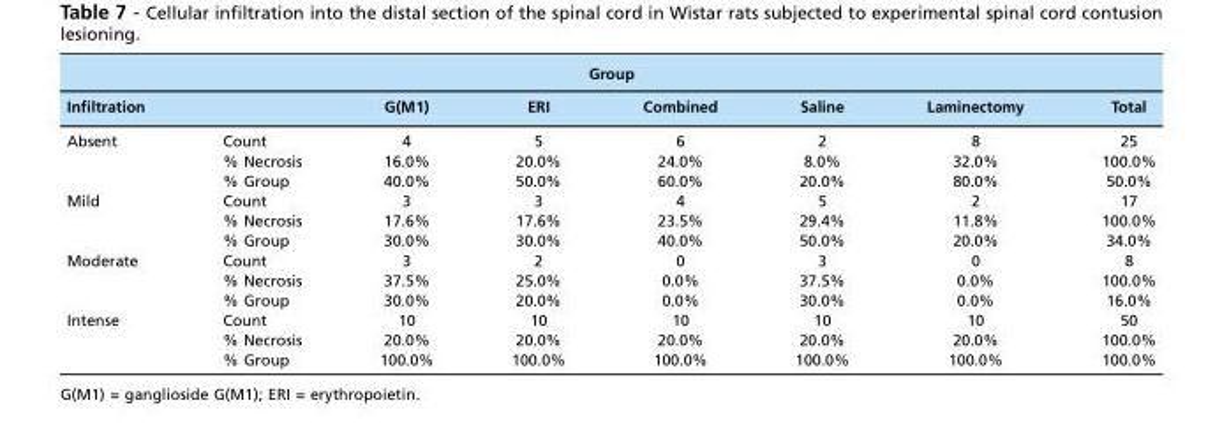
<table><thead><tr><td colspan="8">Group</td></tr><tr><td>Infiltration</td><td></td><td>G(M1)</td><td>ERI</td><td>Combined</td><td>Saline</td><td>Laminectomy</td><td>Total</td></tr></thead><tbody><tr><td rowspan="3">Absent</td><td>Count</td><td>4</td><td>5</td><td>6</td><td>2</td><td>8</td><td>25</td></tr><tr><td>% Necrosis</td><td>16.0%</td><td>20.0%</td><td>24.0%</td><td>8.0%</td><td>32.0%</td><td>100.0%</td></tr><tr><td>% Group</td><td>40.0%</td><td>50.0%</td><td>60.0%</td><td>20.0%</td><td>80.0%</td><td>50.0%</td></tr><tr><td rowspan="3">Mild</td><td>Count</td><td>3</td><td>3</td><td>4</td><td>5</td><td>2</td><td>17</td></tr><tr><td>% Necrosis</td><td>17.6%</td><td>17.6%</td><td>23.5%</td><td>29.4%</td><td>11.8%</td><td>100.0%</td></tr><tr><td>% Group</td><td>30.0%</td><td>30.0%</td><td>40.0%</td><td>50.0%</td><td>20.0%</td><td>34.0%</td></tr><tr><td rowspan="3">Moderate</td><td>Count</td><td>3</td><td>2</td><td>0</td><td>3</td><td>0</td><td>8</td></tr><tr><td>% Necrosis</td><td>37.5%</td><td>25.0%</td><td>0.0%</td><td>37.5%</td><td>0.0%</td><td>100.0%</td></tr><tr><td>% Group</td><td>30.0%</td><td>20.0%</td><td>0.0%</td><td>30.0%</td><td>0.0%</td><td>16.0%</td></tr><tr><td rowspan="3">Intense</td><td>Count</td><td>10</td><td>10</td><td>10</td><td>10</td><td>10</td><td>50</td></tr><tr><td>% Necrosis</td><td>20.0%</td><td>20.0%</td><td>20.0%</td><td>20.0%</td><td>20.0%</td><td>100.0%</td></tr><tr><td>% Group</td><td>100.0%</td><td>100.0%</td><td>100.0%</td><td>100.0%</td><td>100.0%</td><td>100.0%</td></tr></tbody></table>